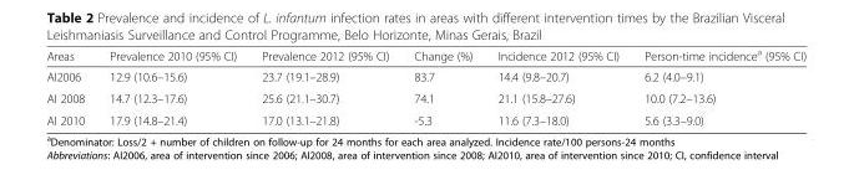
<table><thead><tr><td>Areas</td><td>Prevalence 2010 (95% CI)</td><td>Prevalence 2012 (95% CI)</td><td>Change (%)</td><td>Incidence 2012 (95% CI)</td><td>Person-time incidence<sup>a</sup> (95% CI)</td></tr></thead><tbody><tr><td>AI2006</td><td>12.9 (10.6–15.6)</td><td>23.7 (19.1–28.9)</td><td>83.7</td><td>14.4 (9.8–20.7)</td><td>6.2 (4.0–9.1)</td></tr><tr><td>AI 2008</td><td>14.7 (12.3–17.6)</td><td>25.6 (21.1–30.7)</td><td>74.1</td><td>21.1 (15.8–27.6)</td><td>10.0 (7.2–13.6)</td></tr><tr><td>AI 2010</td><td>17.9 (14.8–21.4)</td><td>17.0 (13.1–21.8)</td><td>-5.3</td><td>11.6 (7.3–18.0)</td><td>5.6 (3.3–9.0)</td></tr></tbody></table>